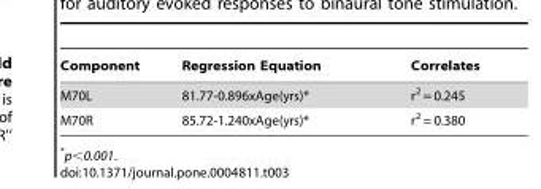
<table><thead><tr><td>Component</td><td>Regression Equation</td><td>Correlates</td></tr></thead><tbody><tr><td>M70L</td><td>81.77-0.896xAge(yrs)*</td><td>r<sup>2</sup> = 0.245</td></tr><tr><td>M70R</td><td>85.72-1.240xAge(yrs)*</td><td>r<sup>2</sup> = 0.380</td></tr></tbody></table>